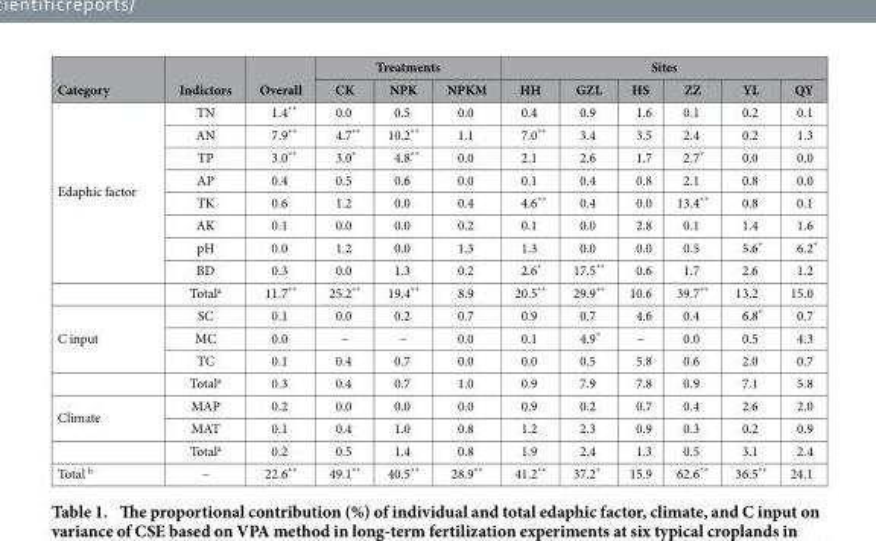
<table><thead><tr><td rowspan="2">Category</td><td rowspan="2">Indictors</td><td rowspan="2">Overall</td><td colspan="3">Treatments</td><td colspan="6">Sites</td></tr><tr><td>CK</td><td>NPK</td><td>NPKM</td><td>HH</td><td>GZL</td><td>HS</td><td>ZZ</td><td>YL</td><td>QY</td></tr></thead><tbody><tr><td rowspan="9">Edaphic factor</td><td>TN</td><td>1.4**</td><td>0.0</td><td>0.5</td><td>0.0</td><td>0.4</td><td>0.9</td><td>1.6</td><td>0.1</td><td>0.2</td><td>0.1</td></tr><tr><td>AN</td><td>7.9**</td><td>4.7**</td><td>10.2**</td><td>1.1</td><td>7.0**</td><td>3.4</td><td>3.5</td><td>2.4</td><td>0.2</td><td>1.3</td></tr><tr><td>TP</td><td>3.0**</td><td>3.0*</td><td>4.8**</td><td>0.0</td><td>2.1</td><td>2.6</td><td>1.7</td><td>2.7*</td><td>0.0</td><td>0.0</td></tr><tr><td>AP</td><td>0.4</td><td>0.5</td><td>0.6</td><td>0.0</td><td>0.1</td><td>0.4</td><td>0.8</td><td>2.1</td><td>0.8</td><td>0.0</td></tr><tr><td>TK</td><td>0.6</td><td>1.2</td><td>0.0</td><td>0.4</td><td>4.6**</td><td>0.4</td><td>0.0</td><td>13.4**</td><td>0.8</td><td>0.1</td></tr><tr><td>AK</td><td>0.1</td><td>0.0</td><td>0.0</td><td>0.2</td><td>0.1</td><td>0.0</td><td>2.8</td><td>0.1</td><td>1.4</td><td>1.6</td></tr><tr><td>pH</td><td>0.0</td><td>1.2</td><td>0.0</td><td>1.3</td><td>1.3</td><td>0.0</td><td>0.0</td><td>0.5</td><td>5.6*</td><td>6.2*</td></tr><tr><td>BD</td><td>0.3</td><td>0.0</td><td>1.3</td><td>0.2</td><td>2.6*</td><td>17.5**</td><td>0.6</td><td>1.7</td><td>2.6</td><td>1.2</td></tr><tr><td>Total<sup>a</sup></td><td>11.7**</td><td>25.2**</td><td>19.4**</td><td>8.9</td><td>20.5**</td><td>29.9**</td><td>10.6</td><td>39.7**</td><td>13.2</td><td>15.0</td></tr><tr><td rowspan="4">C input</td><td>SC</td><td>0.1</td><td>0.0</td><td>0.2</td><td>0.7</td><td>0.9</td><td>0.7</td><td>4.6</td><td>0.4</td><td>6.8*</td><td>0.7</td></tr><tr><td>MC</td><td>0.0</td><td>–</td><td>–</td><td>0.0</td><td>0.1</td><td>4.9*</td><td>–</td><td>0.0</td><td>0.5</td><td>4.3</td></tr><tr><td>TC</td><td>0.1</td><td>0.4</td><td>0.7</td><td>0.0</td><td>0.0</td><td>0.5</td><td>5.8</td><td>0.6</td><td>2.0</td><td>0.7</td></tr><tr><td>Total<sup>a</sup></td><td>0.3</td><td>0.4</td><td>0.7</td><td>1.0</td><td>0.9</td><td>7.9</td><td>7.8</td><td>0.9</td><td>7.1</td><td>5.8</td></tr><tr><td rowspan="3">Climate</td><td>MAP</td><td>0.2</td><td>0.0</td><td>0.0</td><td>0.0</td><td>0.9</td><td>0.2</td><td>0.7</td><td>0.4</td><td>2.6</td><td>2.0</td></tr><tr><td>MAT</td><td>0.1</td><td>0.4</td><td>1.0</td><td>0.8</td><td>1.2</td><td>2.3</td><td>0.9</td><td>0.3</td><td>0.2</td><td>0.9</td></tr><tr><td>Total<sup>a</sup></td><td>0.2</td><td>0.5</td><td>1.4</td><td>0.8</td><td>1.9</td><td>2.4</td><td>1.3</td><td>0.5</td><td>3.1</td><td>2.4</td></tr><tr><td>Total <sup>b</sup></td><td>–</td><td>22.6**</td><td>49.1**</td><td>40.5**</td><td>28.9**</td><td>41.2**</td><td>37.2*</td><td>15.9</td><td>62.6**</td><td>36.5**</td><td>24.1</td></tr></tbody></table>